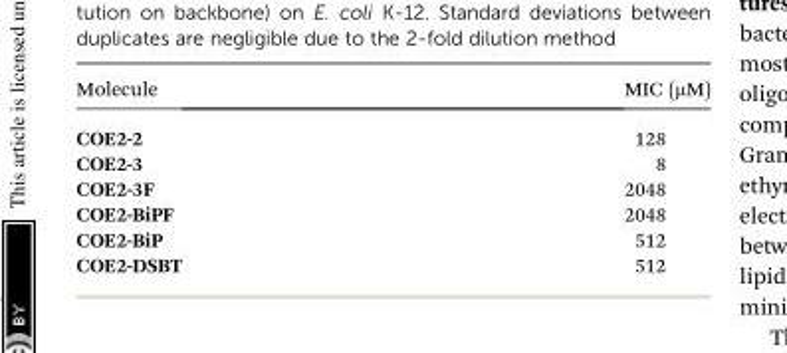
<table><thead><tr><td>Molecule</td><td>MIC (μM)</td></tr></thead><tbody><tr><td>COE2-2</td><td>128</td></tr><tr><td>COE2-3</td><td>8</td></tr><tr><td>COE2-3F</td><td>2048</td></tr><tr><td>COE2-BiPF</td><td>2048</td></tr><tr><td>COE2-BiP</td><td>512</td></tr><tr><td>COE2-DSBT</td><td>512</td></tr></tbody></table>